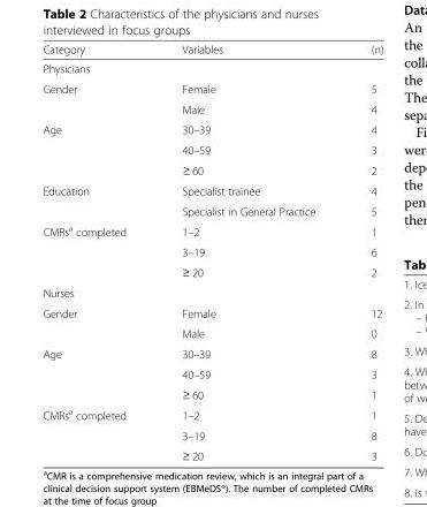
<table><thead><tr><td>Category</td><td>Variables</td><td>(n)</td></tr></thead><tbody><tr><td colspan="3">Physicians</td></tr><tr><td rowspan="2">Gender</td><td>Female</td><td>5</td></tr><tr><td>Male</td><td>4</td></tr><tr><td rowspan="3">Age</td><td>30–39</td><td>4</td></tr><tr><td>40–59</td><td>3</td></tr><tr><td>≥ 60</td><td>2</td></tr><tr><td rowspan="2">Education</td><td>Specialist trainee</td><td>4</td></tr><tr><td>Specialist in General Practice</td><td>5</td></tr><tr><td rowspan="3">CMRs<sup>a</sup> completed</td><td>1–2</td><td>1</td></tr><tr><td>3–19</td><td>6</td></tr><tr><td>≥ 20</td><td>2</td></tr><tr><td colspan="3">Nurses</td></tr><tr><td rowspan="2">Gender</td><td>Female</td><td>12</td></tr><tr><td>Male</td><td>0</td></tr><tr><td rowspan="3">Age</td><td>30–39</td><td>8</td></tr><tr><td>40–59</td><td>3</td></tr><tr><td>≥ 60</td><td>1</td></tr><tr><td rowspan="3">CMRs<sup>a</sup> completed</td><td>1–2</td><td>1</td></tr><tr><td>3–19</td><td>8</td></tr><tr><td>≥ 20</td><td>3</td></tr></tbody></table>